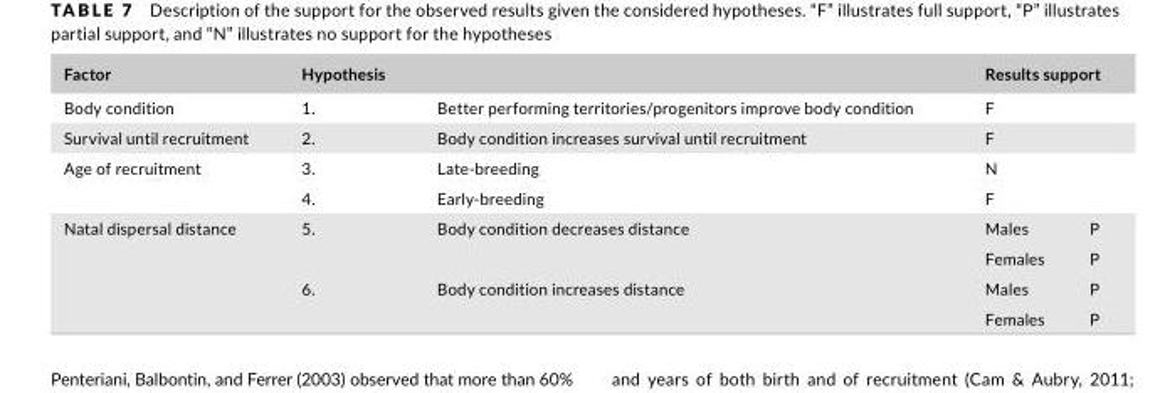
<table><thead><tr><td>Factor</td><td>Hypothesis</td><td></td><td colspan="2">Results support</td></tr></thead><tbody><tr><td>Body condition</td><td>1.</td><td>Better performing territories/progenitors improve body condition</td><td colspan="2">F</td></tr><tr><td>Survival until recruitment</td><td>2.</td><td>Body condition increases survival until recruitment</td><td colspan="2">F</td></tr><tr><td rowspan="2">Age of recruitment</td><td>3.</td><td>Late- breeding</td><td colspan="2">N</td></tr><tr><td>4.</td><td>Early- breeding</td><td colspan="2">F</td></tr><tr><td rowspan="4">Natal dispersal distance</td><td rowspan="2">5.</td><td rowspan="2">Body condition decreases distance</td><td>Males</td><td>P</td></tr><tr><td>Females</td><td>P</td></tr><tr><td rowspan="2">6.</td><td rowspan="2">Body condition increases distance</td><td>Males</td><td>P</td></tr><tr><td>Females</td><td>P</td></tr></tbody></table>